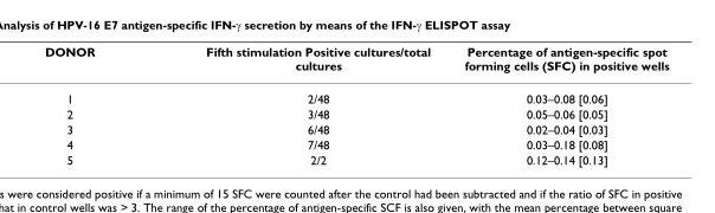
<table><thead><tr><td>DONOR</td><td>Fifth stimulation Positive cultures/total cultures</td><td>Percentage of antigen-specific spot forming cells (SFC) in positive wells</td></tr></thead><tbody><tr><td>1</td><td>2/48</td><td>0.03–0.08 [0.06]</td></tr><tr><td>2</td><td>3/48</td><td>0.05–0.06 [0.05]</td></tr><tr><td>3</td><td>6/48</td><td>0.02–0.04 [0.03]</td></tr><tr><td>4</td><td>7/48</td><td>0.03–0.18 [0.08]</td></tr><tr><td>5</td><td>2/2</td><td>0.12–0.14 [0.13]</td></tr></tbody></table>